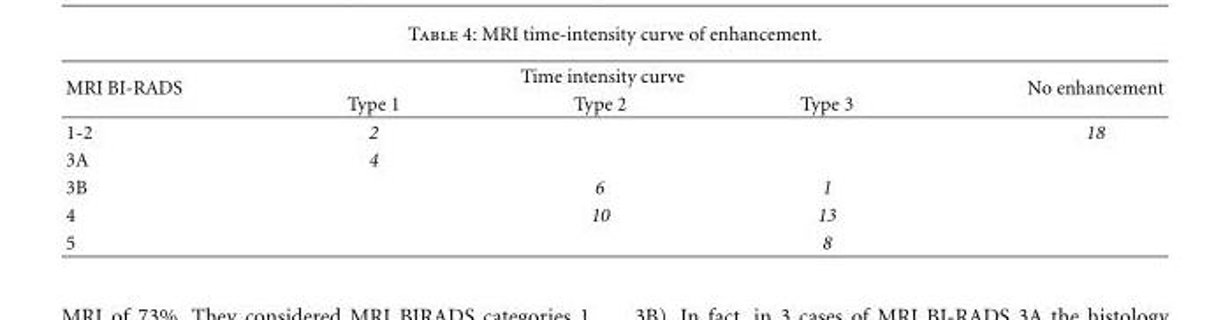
<table><thead><tr><td rowspan="2">MRI BI-RADS</td><td colspan="3">Time intensity curve</td><td rowspan="2">No enhancement</td></tr><tr><td>Type 1</td><td>Type 2</td><td>Type 3</td></tr></thead><tbody><tr><td>1-2</td><td>2</td><td></td><td></td><td>18</td></tr><tr><td>3A</td><td>4</td><td></td><td></td><td></td></tr><tr><td>3B</td><td></td><td>6</td><td>1</td><td></td></tr><tr><td>4</td><td></td><td>10</td><td>13</td><td></td></tr><tr><td>5</td><td></td><td></td><td>8</td><td></td></tr></tbody></table>